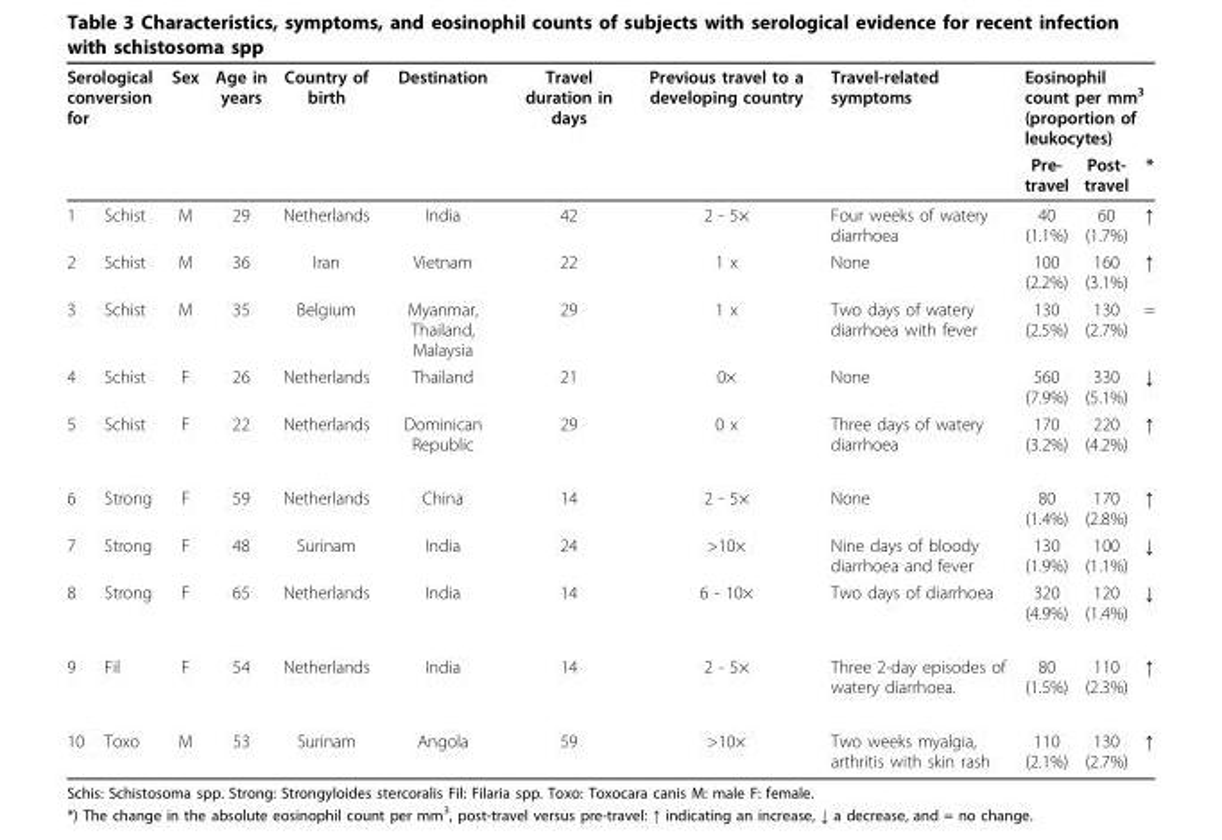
<table><thead><tr><td colspan="2">Serological conversion for</td><td rowspan="2">Sex</td><td rowspan="2">Age in years</td><td rowspan="2">Country of birth</td><td rowspan="2">Destination</td><td rowspan="2">Travel duration in days</td><td rowspan="2">Previous travel to a developing country</td><td rowspan="2">Travel-related symptoms</td><td colspan="3">Eosinophil count per mm<sup>3</sup> (proportion of leukocytes)</td></tr><tr><td></td><td></td><td>Pre- travel</td><td>Post- travel</td><td>*</td></tr></thead><tbody><tr><td>1</td><td>Schist</td><td>M</td><td>29</td><td>Netherlands</td><td>India</td><td>42</td><td>2 - 5×</td><td>Four weeks of watery diarrhoea</td><td>40 (1.1%)</td><td>60 (1.7%)</td><td>↑</td></tr><tr><td>2</td><td>Schist</td><td>M</td><td>36</td><td>Iran</td><td>Vietnam</td><td>22</td><td>1 x</td><td>None</td><td>100 (2.2%)</td><td>160 (3.1%)</td><td>↑</td></tr><tr><td>3</td><td>Schist</td><td>M</td><td>35</td><td>Belgium</td><td>Myanmar, Thailand, Malaysia</td><td>29</td><td>1 x</td><td>Two days of watery diarrhoea with fever</td><td>130 (2.5%)</td><td>130 (2.7%)</td><td>=</td></tr><tr><td>4</td><td>Schist</td><td>F</td><td>26</td><td>Netherlands</td><td>Thailand</td><td>21</td><td>0×</td><td>None</td><td>560 (7.9%)</td><td>330 (5.1%)</td><td>↓</td></tr><tr><td>5</td><td>Schist</td><td>F</td><td>22</td><td>Netherlands</td><td>Dominican Republic</td><td>29</td><td>0 x</td><td>Three days of watery diarrhoea</td><td>170 (3.2%)</td><td>220 (4.2%)</td><td>↑</td></tr><tr><td>6</td><td>Strong</td><td>F</td><td>59</td><td>Netherlands</td><td>China</td><td>14</td><td>2 - 5×</td><td>None</td><td>80 (1.4%)</td><td>170 (2.8%)</td><td>↑</td></tr><tr><td>7</td><td>Strong</td><td>F</td><td>48</td><td>Surinam</td><td>India</td><td>24</td><td>&gt;10×</td><td>Nine days of bloody diarrhoea and fever</td><td>130 (1.9%)</td><td>100 (1.1%)</td><td>↓</td></tr><tr><td>8</td><td>Strong</td><td>F</td><td>65</td><td>Netherlands</td><td>India</td><td>14</td><td>6 - 10×</td><td>Two days of diarrhoea</td><td>320 (4.9%)</td><td>120 (1.4%)</td><td>↓</td></tr><tr><td>9</td><td>Fil</td><td>F</td><td>54</td><td>Netherlands</td><td>India</td><td>14</td><td>2 - 5×</td><td>Three 2-day episodes of watery diarrhoea.</td><td>80 (1.5%)</td><td>110 (2.3%)</td><td>↑</td></tr><tr><td>10</td><td>Toxo</td><td>M</td><td>53</td><td>Surinam</td><td>Angola</td><td>59</td><td>&gt;10×</td><td>Two weeks myalgia, arthritis with skin rash</td><td>110 (2.1%)</td><td>130 (2.7%)</td><td>↑</td></tr></tbody></table>